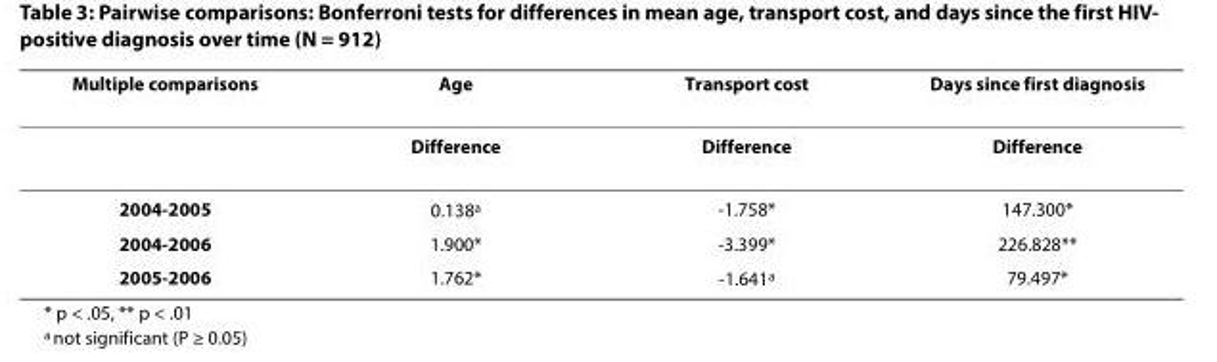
<table><thead><tr><td>Multiple comparisons</td><td>Age</td><td>Transport cost</td><td>Days since first diagnosis</td></tr></thead><tbody><tr><td></td><td>Difference</td><td>Difference</td><td>Difference</td></tr><tr><td>2004-2005</td><td>0.138<sup>a</sup></td><td>-1.758*</td><td>147.300*</td></tr><tr><td>2004-2006</td><td>1.900*</td><td>-3.399*</td><td>226.828**</td></tr><tr><td>2005-2006</td><td>1.762*</td><td>-1.641<sup>a</sup></td><td>79.497*</td></tr></tbody></table>